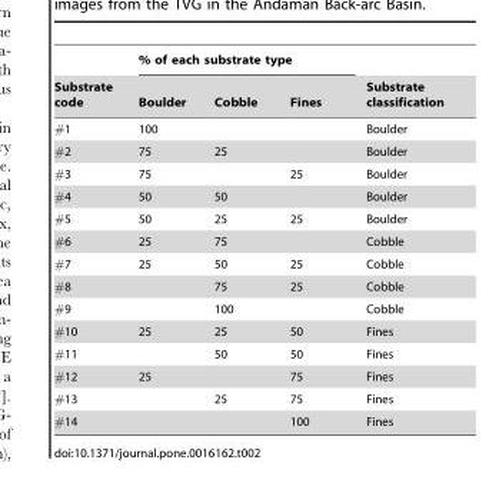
<table><thead><tr><td rowspan="2">Substrate code</td><td colspan="3">% of each substrate type</td><td rowspan="2">Substrate classification</td></tr><tr><td>Boulder</td><td>Cobble</td><td>Fines</td></tr></thead><tbody><tr><td>#1</td><td>100</td><td></td><td></td><td>Boulder</td></tr><tr><td>#2</td><td>75</td><td>25</td><td></td><td>Boulder</td></tr><tr><td>#3</td><td>75</td><td></td><td>25</td><td>Boulder</td></tr><tr><td>#4</td><td>50</td><td>50</td><td></td><td>Boulder</td></tr><tr><td>#5</td><td>50</td><td>25</td><td>25</td><td>Boulder</td></tr><tr><td>#6</td><td>25</td><td>75</td><td></td><td>Cobble</td></tr><tr><td>#7</td><td>25</td><td>50</td><td>25</td><td>Cobble</td></tr><tr><td>#8</td><td></td><td>75</td><td>25</td><td>Cobble</td></tr><tr><td>#9</td><td></td><td>100</td><td></td><td>Cobble</td></tr><tr><td>#10</td><td>25</td><td>25</td><td>50</td><td>Fines</td></tr><tr><td>#11</td><td></td><td>50</td><td>50</td><td>Fines</td></tr><tr><td>#12</td><td>25</td><td></td><td>75</td><td>Fines</td></tr><tr><td>#13</td><td></td><td>25</td><td>75</td><td>Fines</td></tr><tr><td>#14</td><td></td><td></td><td>100</td><td>Fines</td></tr></tbody></table>